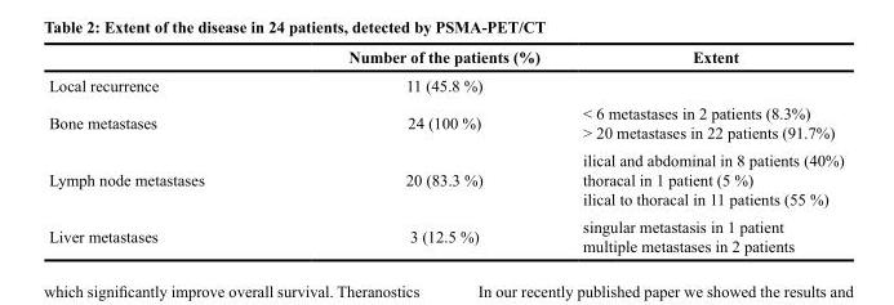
<table><thead><tr><td></td><td>Number of the patients (%)</td><td>Extent</td></tr></thead><tbody><tr><td>Local recurrence</td><td>11 (45.8 %)</td><td></td></tr><tr><td>Bone metastases</td><td>24 (100 %)</td><td>&lt; 6 metastases in 2 patients (8.3%) &gt; 20 metastases in 22 patients (91.7%)</td></tr><tr><td>Lymph node metastases</td><td>20 (83.3 %)</td><td>ilical and abdominal in 8 patients (40%) thoracal in 1 patient (5 %) ilical to thoracal in 11 patients (55 %)</td></tr><tr><td>Liver metastases</td><td>3 (12.5 %)</td><td>singular metastasis in 1 patient multiple metastases in 2 patients</td></tr></tbody></table>